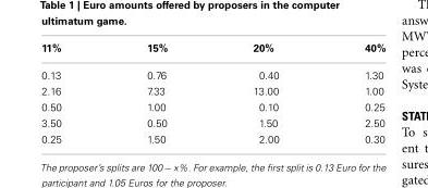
<table><thead><tr><td>11%</td><td>15%</td><td>20%</td><td>40%</td></tr></thead><tbody><tr><td>0.13</td><td>0.76</td><td>0.40</td><td>1.30</td></tr><tr><td>2.16</td><td>7.33</td><td>13.00</td><td>1.00</td></tr><tr><td>0.50</td><td>1.00</td><td>0.10</td><td>0.25</td></tr><tr><td>3.50</td><td>0.50</td><td>1.50</td><td>2.50</td></tr><tr><td>0.25</td><td>1.50</td><td>2.00</td><td>0.30</td></tr></tbody></table>